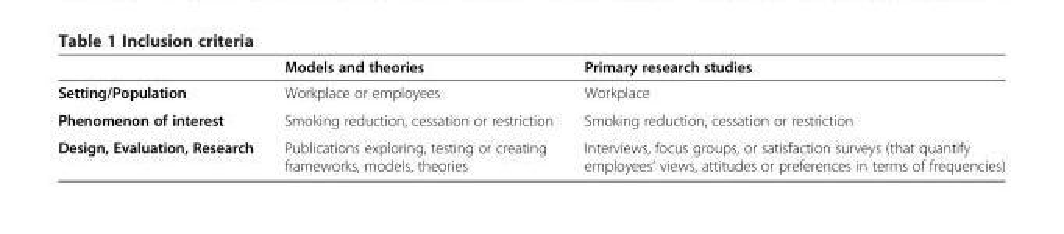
<table><thead><tr><td></td><td>Models and theories</td><td>Primary research studies</td></tr></thead><tbody><tr><td>Setting/Population</td><td>Workplace or employees</td><td>Workplace</td></tr><tr><td>Phenomenon of interest</td><td>Smoking reduction, cessation or restriction</td><td>Smoking reduction, cessation or restriction</td></tr><tr><td>Design, Evaluation, Research</td><td>Publications exploring, testing or creating frameworks, models, theories</td><td>Interviews, focus groups, or satisfaction surveys (that quantify employees’ views, attitudes or preferences in terms of frequencies)</td></tr></tbody></table>